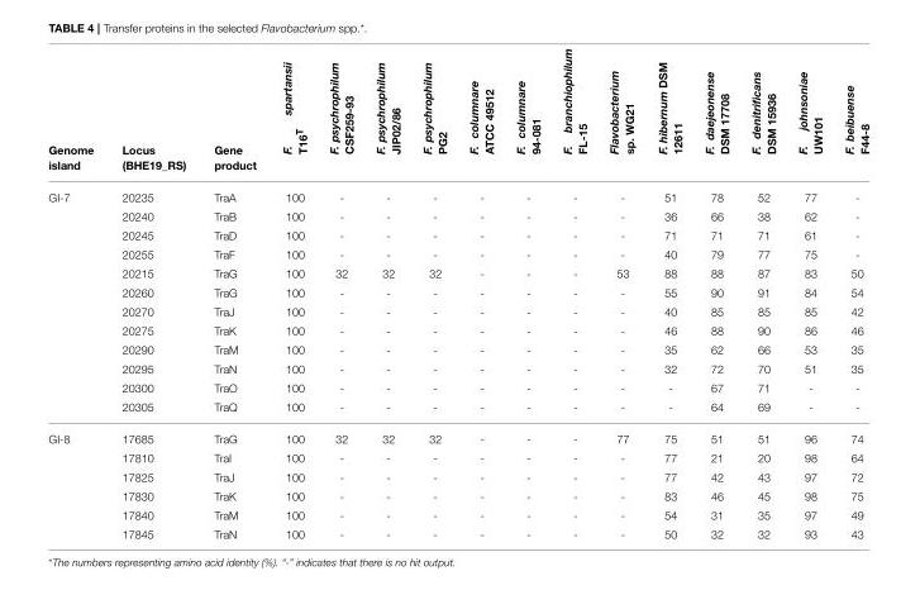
<table><thead><tr><td>Genome island</td><td>Locus (BHE19_RS)</td><td>Gene product</td><td>F. spartansii T16<sup>T</sup></td><td>F. psychrophilum CSF259-93</td><td>F. psychrophilum JIP02/86</td><td>F. psychrophilum PG2</td><td>F. columnare ATCC 49512</td><td>F. columnare 94-081</td><td>F. branchiophilum FL-15</td><td>Flavobacterium sp. WG21</td><td>F. hibernum DSM 12611</td><td>F. daejeonense DSM 17708</td><td>F. denitrificans DSM 15936</td><td>F. johnsoniae UW101</td><td>F. beibuense F44-8</td></tr></thead><tbody><tr><td rowspan="12">GI-7</td><td>20235</td><td>TraA</td><td>100</td><td>-</td><td>-</td><td>-</td><td>-</td><td>-</td><td>-</td><td>-</td><td>51</td><td>78</td><td>52</td><td>77</td><td>-</td></tr><tr><td>20240</td><td>TraB</td><td>100</td><td>-</td><td>-</td><td>-</td><td>-</td><td>-</td><td>-</td><td>-</td><td>36</td><td>66</td><td>38</td><td>62</td><td>-</td></tr><tr><td>20245</td><td>TraD</td><td>100</td><td>-</td><td>-</td><td>-</td><td>-</td><td>-</td><td>-</td><td>-</td><td>71</td><td>71</td><td>71</td><td>61</td><td>-</td></tr><tr><td>20255</td><td>TraF</td><td>100</td><td>-</td><td>-</td><td>-</td><td>-</td><td>-</td><td>-</td><td>-</td><td>40</td><td>79</td><td>77</td><td>75</td><td>-</td></tr><tr><td>20215</td><td>TraG</td><td>100</td><td>32</td><td>32</td><td>32</td><td>-</td><td>-</td><td>-</td><td>53</td><td>88</td><td>88</td><td>87</td><td>83</td><td>50</td></tr><tr><td>20260</td><td>TraG</td><td>100</td><td>-</td><td>-</td><td>-</td><td>-</td><td>-</td><td>-</td><td>-</td><td>55</td><td>90</td><td>91</td><td>84</td><td>54</td></tr><tr><td>20270</td><td>TraJ</td><td>100</td><td>-</td><td>-</td><td>-</td><td>-</td><td>-</td><td>-</td><td>-</td><td>40</td><td>85</td><td>85</td><td>85</td><td>42</td></tr><tr><td>20275</td><td>TraK</td><td>100</td><td>-</td><td>-</td><td>-</td><td>-</td><td>-</td><td>-</td><td>-</td><td>46</td><td>88</td><td>90</td><td>86</td><td>46</td></tr><tr><td>20290</td><td>TraM</td><td>100</td><td>-</td><td>-</td><td>-</td><td>-</td><td>-</td><td>-</td><td>-</td><td>35</td><td>62</td><td>66</td><td>53</td><td>35</td></tr><tr><td>20295</td><td>TraN</td><td>100</td><td>-</td><td>-</td><td>-</td><td>-</td><td>-</td><td>-</td><td>-</td><td>32</td><td>72</td><td>70</td><td>51</td><td>35</td></tr><tr><td>20300</td><td>TraO</td><td>100</td><td>-</td><td>-</td><td>-</td><td>-</td><td>-</td><td>-</td><td>-</td><td>-</td><td>67</td><td>71</td><td>-</td><td>-</td></tr><tr><td>20305</td><td>TraQ</td><td>100</td><td>-</td><td>-</td><td>-</td><td>-</td><td>-</td><td>-</td><td>-</td><td>-</td><td>64</td><td>69</td><td>-</td><td>-</td></tr><tr><td rowspan="6">GI-8</td><td>17685</td><td>TraG</td><td>100</td><td>32</td><td>32</td><td>32</td><td>-</td><td>-</td><td>-</td><td>77</td><td>75</td><td>51</td><td>51</td><td>96</td><td>74</td></tr><tr><td>17810</td><td>TraI</td><td>100</td><td>-</td><td>-</td><td>-</td><td>-</td><td>-</td><td>-</td><td>-</td><td>77</td><td>21</td><td>20</td><td>98</td><td>64</td></tr><tr><td>17825</td><td>TraJ</td><td>100</td><td>-</td><td>-</td><td>-</td><td>-</td><td>-</td><td>-</td><td>-</td><td>77</td><td>42</td><td>43</td><td>97</td><td>72</td></tr><tr><td>17830</td><td>TraK</td><td>100</td><td>-</td><td>-</td><td>-</td><td>-</td><td>-</td><td>-</td><td>-</td><td>83</td><td>46</td><td>45</td><td>98</td><td>75</td></tr><tr><td>17840</td><td>TraM</td><td>100</td><td>-</td><td>-</td><td>-</td><td>-</td><td>-</td><td>-</td><td>-</td><td>54</td><td>31</td><td>35</td><td>97</td><td>49</td></tr><tr><td>17845</td><td>TraN</td><td>100</td><td>-</td><td>-</td><td>-</td><td>-</td><td>-</td><td>-</td><td>-</td><td>50</td><td>32</td><td>32</td><td>93</td><td>43</td></tr></tbody></table>